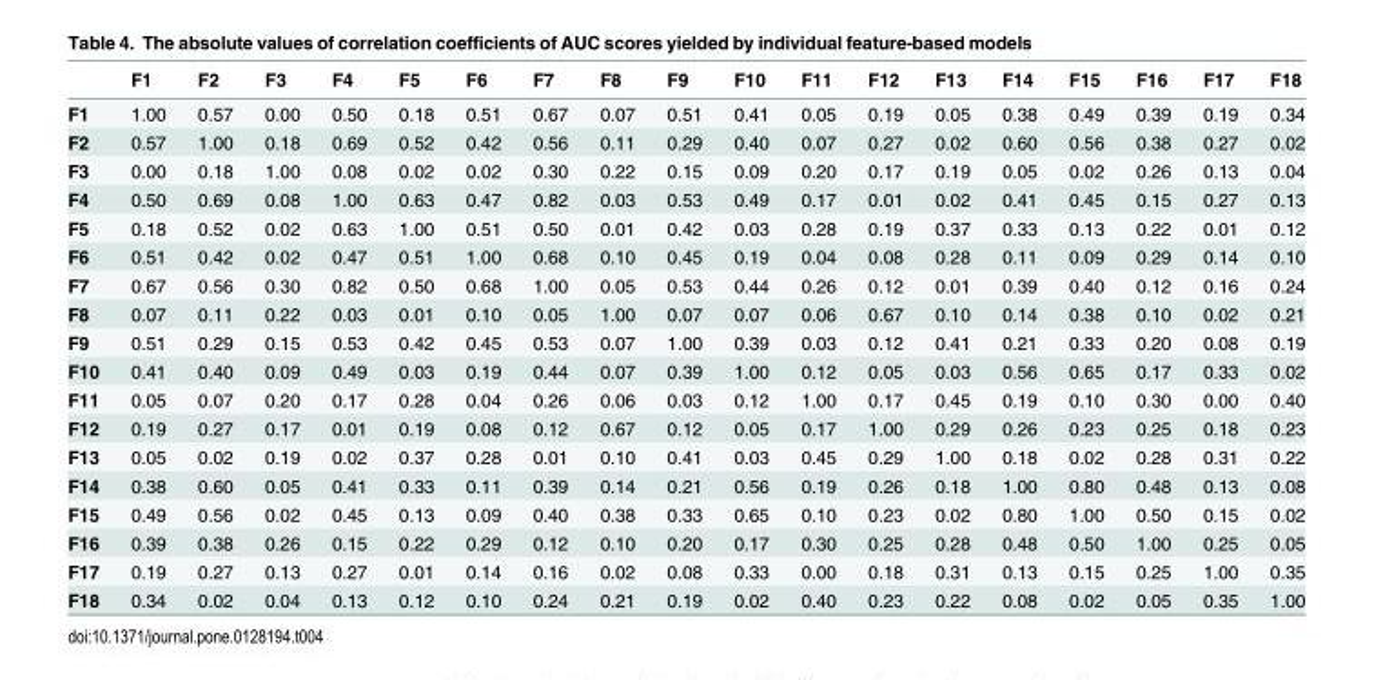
<table><thead><tr><td></td><td>F1</td><td>F2</td><td>F3</td><td>F4</td><td>F5</td><td>F6</td><td>F7</td><td>F8</td><td>F9</td><td>F10</td><td>F11</td><td>F12</td><td>F13</td><td>F14</td><td>F15</td><td>F16</td><td>F17</td><td>F18</td></tr></thead><tbody><tr><td>F1</td><td>1.00</td><td>0.57</td><td>0.00</td><td>0.50</td><td>0.18</td><td>0.51</td><td>0.67</td><td>0.07</td><td>0.51</td><td>0.41</td><td>0.05</td><td>0.19</td><td>0.05</td><td>0.38</td><td>0.49</td><td>0.39</td><td>0.19</td><td>0.34</td></tr><tr><td>F2</td><td>0.57</td><td>1.00</td><td>0.18</td><td>0.69</td><td>0.52</td><td>0.42</td><td>0.56</td><td>0.11</td><td>0.29</td><td>0.40</td><td>0.07</td><td>0.27</td><td>0.02</td><td>0.60</td><td>0.56</td><td>0.38</td><td>0.27</td><td>0.02</td></tr><tr><td>F3</td><td>0.00</td><td>0.18</td><td>1.00</td><td>0.08</td><td>0.02</td><td>0.02</td><td>0.30</td><td>0.22</td><td>0.15</td><td>0.09</td><td>0.20</td><td>0.17</td><td>0.19</td><td>0.05</td><td>0.02</td><td>0.26</td><td>0.13</td><td>0.04</td></tr><tr><td>F4</td><td>0.50</td><td>0.69</td><td>0.08</td><td>1.00</td><td>0.63</td><td>0.47</td><td>0.82</td><td>0.03</td><td>0.53</td><td>0.49</td><td>0.17</td><td>0.01</td><td>0.02</td><td>0.41</td><td>0.45</td><td>0.15</td><td>0.27</td><td>0.13</td></tr><tr><td>F5</td><td>0.18</td><td>0.52</td><td>0.02</td><td>0.63</td><td>1.00</td><td>0.51</td><td>0.50</td><td>0.01</td><td>0.42</td><td>0.03</td><td>0.28</td><td>0.19</td><td>0.37</td><td>0.33</td><td>0.13</td><td>0.22</td><td>0.01</td><td>0.12</td></tr><tr><td>F6</td><td>0.51</td><td>0.42</td><td>0.02</td><td>0.47</td><td>0.51</td><td>1.00</td><td>0.68</td><td>0.10</td><td>0.45</td><td>0.19</td><td>0.04</td><td>0.08</td><td>0.28</td><td>0.11</td><td>0.09</td><td>0.29</td><td>0.14</td><td>0.10</td></tr><tr><td>F7</td><td>0.67</td><td>0.56</td><td>0.30</td><td>0.82</td><td>0.50</td><td>0.68</td><td>1.00</td><td>0.05</td><td>0.53</td><td>0.44</td><td>0.26</td><td>0.12</td><td>0.01</td><td>0.39</td><td>0.40</td><td>0.12</td><td>0.16</td><td>0.24</td></tr><tr><td>F8</td><td>0.07</td><td>0.11</td><td>0.22</td><td>0.03</td><td>0.01</td><td>0.10</td><td>0.05</td><td>1.00</td><td>0.07</td><td>0.07</td><td>0.06</td><td>0.67</td><td>0.10</td><td>0.14</td><td>0.38</td><td>0.10</td><td>0.02</td><td>0.21</td></tr><tr><td>F9</td><td>0.51</td><td>0.29</td><td>0.15</td><td>0.53</td><td>0.42</td><td>0.45</td><td>0.53</td><td>0.07</td><td>1.00</td><td>0.39</td><td>0.03</td><td>0.12</td><td>0.41</td><td>0.21</td><td>0.33</td><td>0.20</td><td>0.08</td><td>0.19</td></tr><tr><td>F10</td><td>0.41</td><td>0.40</td><td>0.09</td><td>0.49</td><td>0.03</td><td>0.19</td><td>0.44</td><td>0.07</td><td>0.39</td><td>1.00</td><td>0.12</td><td>0.05</td><td>0.03</td><td>0.56</td><td>0.65</td><td>0.17</td><td>0.33</td><td>0.02</td></tr><tr><td>F11</td><td>0.05</td><td>0.07</td><td>0.20</td><td>0.17</td><td>0.28</td><td>0.04</td><td>0.26</td><td>0.06</td><td>0.03</td><td>0.12</td><td>1.00</td><td>0.17</td><td>0.45</td><td>0.19</td><td>0.10</td><td>0.30</td><td>0.00</td><td>0.40</td></tr><tr><td>F12</td><td>0.19</td><td>0.27</td><td>0.17</td><td>0.01</td><td>0.19</td><td>0.08</td><td>0.12</td><td>0.67</td><td>0.12</td><td>0.05</td><td>0.17</td><td>1.00</td><td>0.29</td><td>0.26</td><td>0.23</td><td>0.25</td><td>0.18</td><td>0.23</td></tr><tr><td>F13</td><td>0.05</td><td>0.02</td><td>0.19</td><td>0.02</td><td>0.37</td><td>0.28</td><td>0.01</td><td>0.10</td><td>0.41</td><td>0.03</td><td>0.45</td><td>0.29</td><td>1.00</td><td>0.18</td><td>0.02</td><td>0.28</td><td>0.31</td><td>0.22</td></tr><tr><td>F14</td><td>0.38</td><td>0.60</td><td>0.05</td><td>0.41</td><td>0.33</td><td>0.11</td><td>0.39</td><td>0.14</td><td>0.21</td><td>0.56</td><td>0.19</td><td>0.26</td><td>0.18</td><td>1.00</td><td>0.80</td><td>0.48</td><td>0.13</td><td>0.08</td></tr><tr><td>F15</td><td>0.49</td><td>0.56</td><td>0.02</td><td>0.45</td><td>0.13</td><td>0.09</td><td>0.40</td><td>0.38</td><td>0.33</td><td>0.65</td><td>0.10</td><td>0.23</td><td>0.02</td><td>0.80</td><td>1.00</td><td>0.50</td><td>0.15</td><td>0.02</td></tr><tr><td>F16</td><td>0.39</td><td>0.38</td><td>0.26</td><td>0.15</td><td>0.22</td><td>0.29</td><td>0.12</td><td>0.10</td><td>0.20</td><td>0.17</td><td>0.30</td><td>0.25</td><td>0.28</td><td>0.48</td><td>0.50</td><td>1.00</td><td>0.25</td><td>0.05</td></tr><tr><td>F17</td><td>0.19</td><td>0.27</td><td>0.13</td><td>0.27</td><td>0.01</td><td>0.14</td><td>0.16</td><td>0.02</td><td>0.08</td><td>0.33</td><td>0.00</td><td>0.18</td><td>0.31</td><td>0.13</td><td>0.15</td><td>0.25</td><td>1.00</td><td>0.35</td></tr><tr><td>F18</td><td>0.34</td><td>0.02</td><td>0.04</td><td>0.13</td><td>0.12</td><td>0.10</td><td>0.24</td><td>0.21</td><td>0.19</td><td>0.02</td><td>0.40</td><td>0.23</td><td>0.22</td><td>0.08</td><td>0.02</td><td>0.05</td><td>0.35</td><td>1.00</td></tr></tbody></table>